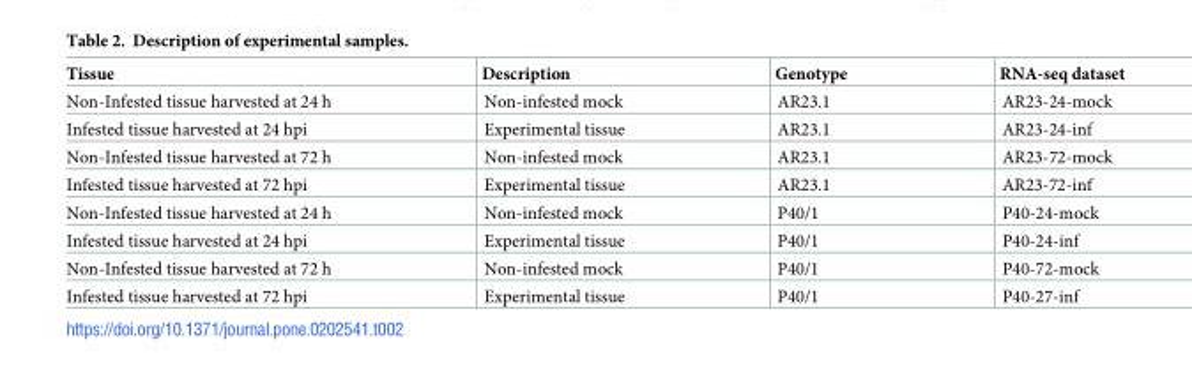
<table><thead><tr><td>Tissue</td><td>Description</td><td>Genotype</td><td>RNA-seq dataset</td></tr></thead><tbody><tr><td>Non-Infested tissue harvested at 24 h</td><td>Non-infested mock</td><td>AR23.1</td><td>AR23-24-mock</td></tr><tr><td>Infested tissue harvested at 24 hpi</td><td>Experimental tissue</td><td>AR23.1</td><td>AR23-24-inf</td></tr><tr><td>Non-Infested tissue harvested at 72 h</td><td>Non-infested mock</td><td>AR23.1</td><td>AR23-72-mock</td></tr><tr><td>Infested tissue harvested at 72 hpi</td><td>Experimental tissue</td><td>AR23.1</td><td>AR23-72-inf</td></tr><tr><td>Non-Infested tissue harvested at 24 h</td><td>Non-infested mock</td><td>P40/1</td><td>P40-24-mock</td></tr><tr><td>Infested tissue harvested at 24 hpi</td><td>Experimental tissue</td><td>P40/1</td><td>P40-24-inf</td></tr><tr><td>Non-Infested tissue harvested at 72 h</td><td>Non-infested mock</td><td>P40/1</td><td>P40-72-mock</td></tr><tr><td>Infested tissue harvested at 72 hpi</td><td>Experimental tissue</td><td>P40/1</td><td>P40-27-inf</td></tr></tbody></table>